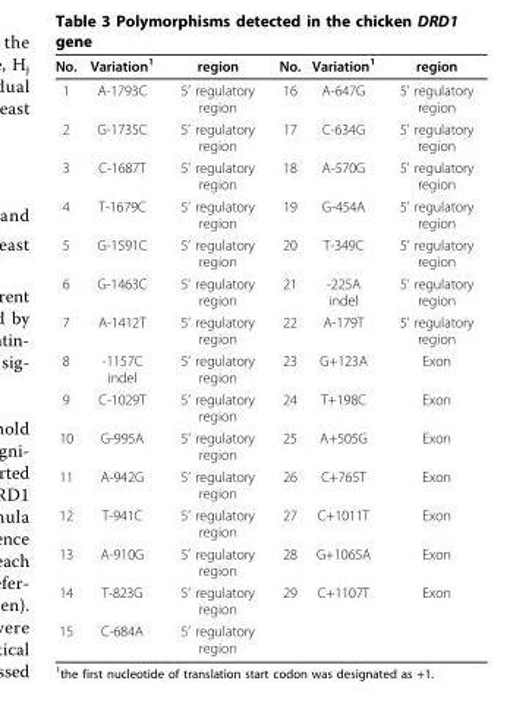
<table><thead><tr><td>No.</td><td>Variation<sup>1</sup></td><td>region</td><td>No.</td><td>Variation<sup>1</sup></td><td>region</td></tr></thead><tbody><tr><td>1</td><td>A-1793C</td><td>5’ regulatory region</td><td>16</td><td>A-647G</td><td>5’ regulatory region</td></tr><tr><td>2</td><td>G-1735C</td><td>5’ regulatory region</td><td>17</td><td>C-634G</td><td>5’ regulatory region</td></tr><tr><td>3</td><td>C-1687T</td><td>5’ regulatory region</td><td>18</td><td>A-570G</td><td>5’ regulatory region</td></tr><tr><td>4</td><td>T-1679C</td><td>5’ regulatory region</td><td>19</td><td>G-454A</td><td>5’ regulatory region</td></tr><tr><td>5</td><td>G-1591C</td><td>5’ regulatory region</td><td>20</td><td>T-349C</td><td>5’ regulatory region</td></tr><tr><td>6</td><td>G-1463C</td><td>5’ regulatory region</td><td>21</td><td>-225A indel</td><td>5’ regulatory region</td></tr><tr><td>7</td><td>A-1412T</td><td>5’ regulatory region</td><td>22</td><td>A-179T</td><td>5’ regulatory region</td></tr><tr><td>8</td><td>-1157C indel</td><td>5’ regulatory region</td><td>23</td><td>G+123A</td><td>Exon</td></tr><tr><td>9</td><td>C-1029T</td><td>5’ regulatory region</td><td>24</td><td>T+198C</td><td>Exon</td></tr><tr><td>10</td><td>G-995A</td><td>5’ regulatory region</td><td>25</td><td>A+505G</td><td>Exon</td></tr><tr><td>11</td><td>A-942G</td><td>5’ regulatory region</td><td>26</td><td>C+765T</td><td>Exon</td></tr><tr><td>12</td><td>T-941C</td><td>5’ regulatory region</td><td>27</td><td>C+1011T</td><td>Exon</td></tr><tr><td>13</td><td>A-910G</td><td>5’ regulatory region</td><td>28</td><td>G+1065A</td><td>Exon</td></tr><tr><td>14</td><td>T-823G</td><td>5’ regulatory region</td><td>29</td><td>C+1107T</td><td>Exon</td></tr><tr><td>15</td><td>C-684A</td><td>5’ regulatory region</td><td></td><td></td><td></td></tr></tbody></table>